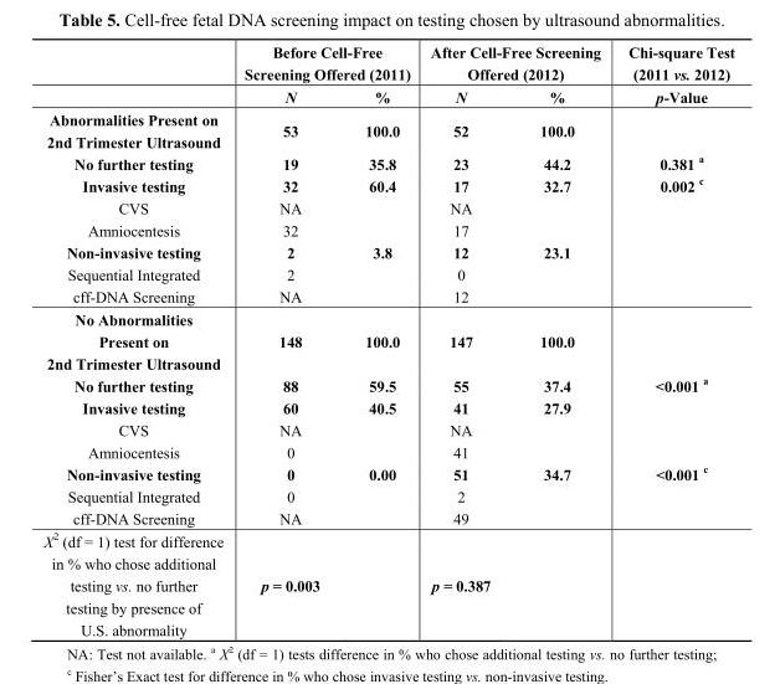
<table><thead><tr><td rowspan="2"></td><td colspan="2">Before Cell-Free Screening Offered (2011)</td><td colspan="2">After Cell-Free Screening Offered (2012)</td><td rowspan="2">Chi-square Test (2011 vs. 2012) p-Value</td></tr><tr><td>N</td><td>%</td><td>N</td><td>%</td></tr></thead><tbody><tr><td>Abnormalities Present on 2nd Trimester Ultrasound</td><td>53</td><td>100.0</td><td>52</td><td>100.0</td><td></td></tr><tr><td>No further testing</td><td>19</td><td>35.8</td><td>23</td><td>44.2</td><td>0.381 <sup>a</sup></td></tr><tr><td>Invasive testing</td><td>32</td><td>60.4</td><td>17</td><td>32.7</td><td>0.002 <sup>c</sup></td></tr><tr><td>CVS</td><td>NA</td><td></td><td>NA</td><td></td><td></td></tr><tr><td>Amniocentesis</td><td>32</td><td></td><td>17</td><td></td><td></td></tr><tr><td>Non-invasive testing</td><td>2</td><td>3.8</td><td>12</td><td>23.1</td><td></td></tr><tr><td>Sequential Integrated</td><td>2</td><td></td><td>0</td><td></td><td></td></tr><tr><td>cff-DNA Screening</td><td>NA</td><td></td><td>12</td><td></td><td></td></tr><tr><td>No Abnormalities Present on 2nd Trimester Ultrasound</td><td>148</td><td>100.0</td><td>147</td><td>100.0</td><td></td></tr><tr><td>No further testing</td><td>88</td><td>59.5</td><td>55</td><td>37.4</td><td>&lt;0.001 <sup>a</sup></td></tr><tr><td>Invasive testing</td><td>60</td><td>40.5</td><td>41</td><td>27.9</td><td></td></tr><tr><td>CVS</td><td>NA</td><td></td><td>NA</td><td></td><td></td></tr><tr><td>Amniocentesis</td><td>0</td><td></td><td>41</td><td></td><td></td></tr><tr><td>Non-invasive testing</td><td>0</td><td>0.00</td><td>51</td><td>34.7</td><td>&lt;0.001 <sup>c</sup></td></tr><tr><td>Sequential Integrated</td><td>0</td><td></td><td>2</td><td></td><td></td></tr><tr><td>cff-DNA Screening</td><td>NA</td><td></td><td>49</td><td></td><td></td></tr><tr><td>Χ<sup>2</sup> (df = 1) test for difference in % who chose additional testing vs. no further testing by presence of U.S. abnormality</td><td>p = 0.003</td><td></td><td>p = 0.387</td><td></td><td></td></tr></tbody></table>